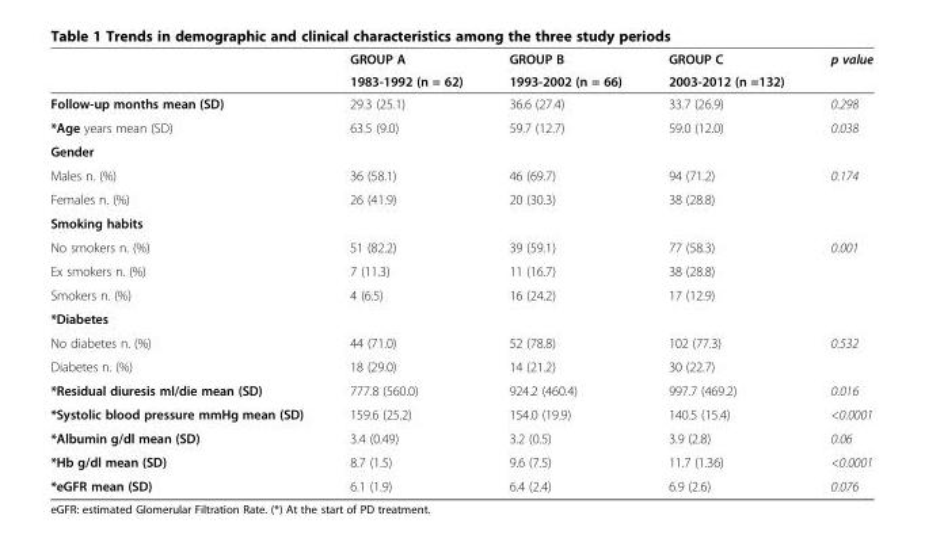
<table><thead><tr><td rowspan="2"></td><td rowspan="2">GROUP A 1983-1992 (n = 62)</td><td rowspan="2">GROUP B 1993-2002 (n = 66)</td><td rowspan="2">GROUP C 2003-2012 (n =132)</td><td rowspan="2">p value</td></tr><tr></tr></thead><tbody><tr><td>Follow-up months mean (SD)</td><td>29.3 (25.1)</td><td>36.6 (27.4)</td><td>33.7 (26.9)</td><td>0.298</td></tr><tr><td>*Age years mean (SD)</td><td>63.5 (9.0)</td><td>59.7 (12.7)</td><td>59.0 (12.0)</td><td>0.038</td></tr><tr><td colspan="5">Gender</td></tr><tr><td>Males n. (%)</td><td>36 (58.1)</td><td>46 (69.7)</td><td>94 (71.2)</td><td rowspan="2">0.174</td></tr><tr><td>Females n. (%)</td><td>26 (41.9)</td><td>20 (30.3)</td><td>38 (28.8)</td></tr><tr><td colspan="5">Smoking habits</td></tr><tr><td>No smokers n. (%)</td><td>51 (82.2)</td><td>39 (59.1)</td><td>77 (58.3)</td><td rowspan="3">0.001</td></tr><tr><td>Ex smokers n. (%)</td><td>7 (11.3)</td><td>11 (16.7)</td><td>38 (28.8)</td></tr><tr><td>Smokers n. (%)</td><td>4 (6.5)</td><td>16 (24.2)</td><td>17 (12.9)</td></tr><tr><td colspan="5">*Diabetes</td></tr><tr><td>No diabetes n. (%)</td><td>44 (71.0)</td><td>52 (78.8)</td><td>102 (77.3)</td><td rowspan="2">0.532</td></tr><tr><td>Diabetes n. (%)</td><td>18 (29.0)</td><td>14 (21.2)</td><td>30 (22.7)</td></tr><tr><td>*Residual diuresis ml/die mean (SD)</td><td>777.8 (560.0)</td><td>924.2 (460.4)</td><td>997.7 (469.2)</td><td>0.016</td></tr><tr><td>*Systolic blood pressure mmHg mean (SD)</td><td>159.6 (25.2)</td><td>154.0 (19.9)</td><td>140.5 (15.4)</td><td>&lt;0.0001</td></tr><tr><td>*Albumin g/dl mean (SD)</td><td>3.4 (0.49)</td><td>3.2 (0.5)</td><td>3.9 (2.8)</td><td>0.06</td></tr><tr><td>*Hb g/dl mean (SD)</td><td>8.7 (1.5)</td><td>9.6 (7.5)</td><td>11.7 (1.36)</td><td>&lt;0.0001</td></tr><tr><td>*eGFR mean (SD)</td><td>6.1 (1.9)</td><td>6.4 (2.4)</td><td>6.9 (2.6)</td><td>0.076</td></tr></tbody></table>